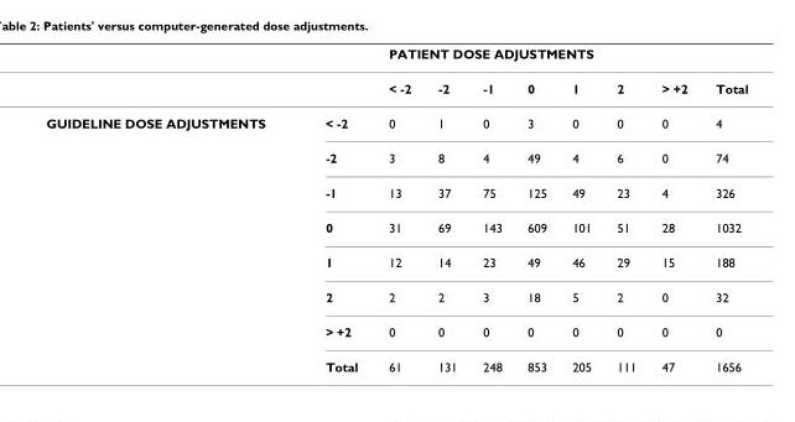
<table><thead><tr><td rowspan="2"></td><td rowspan="2"></td><td colspan="7">PATIENT DOSE ADJUSTMENTS</td><td rowspan="2">Total</td></tr><tr><td>&lt; -2</td><td>-2</td><td>-1</td><td>0</td><td>1</td><td>2</td><td>&gt; +2</td></tr></thead><tbody><tr><td rowspan="8">GUIDELINE DOSE ADJUSTMENTS</td><td>&lt; -2</td><td>0</td><td>1</td><td>0</td><td>3</td><td>0</td><td>0</td><td>0</td><td>4</td></tr><tr><td>-2</td><td>3</td><td>8</td><td>4</td><td>49</td><td>4</td><td>6</td><td>0</td><td>74</td></tr><tr><td>-1</td><td>13</td><td>37</td><td>75</td><td>125</td><td>49</td><td>23</td><td>4</td><td>326</td></tr><tr><td>0</td><td>31</td><td>69</td><td>143</td><td>609</td><td>101</td><td>51</td><td>28</td><td>1032</td></tr><tr><td>1</td><td>12</td><td>14</td><td>23</td><td>49</td><td>46</td><td>29</td><td>15</td><td>188</td></tr><tr><td>2</td><td>2</td><td>2</td><td>3</td><td>18</td><td>5</td><td>2</td><td>0</td><td>32</td></tr><tr><td>&gt; +2</td><td>0</td><td>0</td><td>0</td><td>0</td><td>0</td><td>0</td><td>0</td><td>0</td></tr><tr><td>Total</td><td>61</td><td>131</td><td>248</td><td>853</td><td>205</td><td>111</td><td>47</td><td>1656</td></tr></tbody></table>